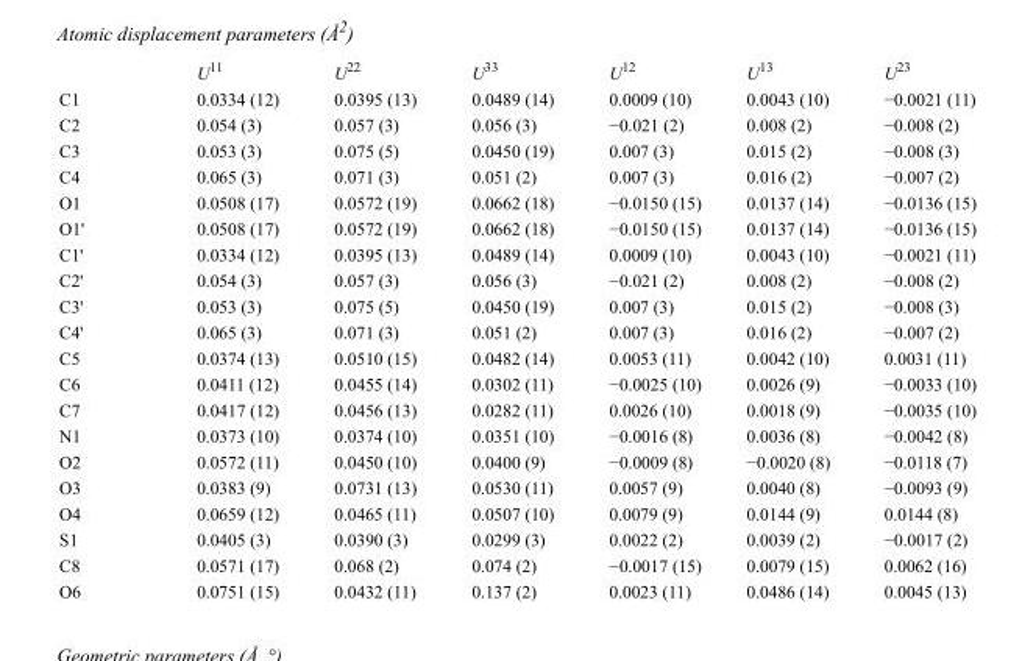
<table><thead><tr><td></td><td>U<sup>11</sup></td><td>U<sup>22</sup></td><td>U<sup>33</sup></td><td>U<sup>12</sup></td><td>U<sup>13</sup></td><td>U<sup>23</sup></td></tr></thead><tbody><tr><td>C1</td><td>0.0334 (12)</td><td>0.0395 (13)</td><td>0.0489 (14)</td><td>0.0009 (10)</td><td>0.0043 (10)</td><td>−0.0021 (11)</td></tr><tr><td>C2</td><td>0.054 (3)</td><td>0.057 (3)</td><td>0.056 (3)</td><td>−0.021 (2)</td><td>0.008 (2)</td><td>−0.008 (2)</td></tr><tr><td>C3</td><td>0.053 (3)</td><td>0.075 (5)</td><td>0.0450 (19)</td><td>0.007 (3)</td><td>0.015 (2)</td><td>−0.008 (3)</td></tr><tr><td>C4</td><td>0.065 (3)</td><td>0.071 (3)</td><td>0.051 (2)</td><td>0.007 (3)</td><td>0.016 (2)</td><td>−0.007 (2)</td></tr><tr><td>O1</td><td>0.0508 (17)</td><td>0.0572 (19)</td><td>0.0662 (18)</td><td>−0.0150 (15)</td><td>0.0137 (14)</td><td>−0.0136 (15)</td></tr><tr><td>O1&#x27;</td><td>0.0508 (17)</td><td>0.0572 (19)</td><td>0.0662 (18)</td><td>−0.0150 (15)</td><td>0.0137 (14)</td><td>−0.0136 (15)</td></tr><tr><td>C1&#x27;</td><td>0.0334 (12)</td><td>0.0395 (13)</td><td>0.0489 (14)</td><td>0.0009 (10)</td><td>0.0043 (10)</td><td>−0.0021 (11)</td></tr><tr><td>C2&#x27;</td><td>0.054 (3)</td><td>0.057 (3)</td><td>0.056 (3)</td><td>−0.021 (2)</td><td>0.008 (2)</td><td>−0.008 (2)</td></tr><tr><td>C3&#x27;</td><td>0.053 (3)</td><td>0.075 (5)</td><td>0.0450 (19)</td><td>0.007 (3)</td><td>0.015 (2)</td><td>−0.008 (3)</td></tr><tr><td>C4&#x27;</td><td>0.065 (3)</td><td>0.071 (3)</td><td>0.051 (2)</td><td>0.007 (3)</td><td>0.016 (2)</td><td>−0.007 (2)</td></tr><tr><td>C5</td><td>0.0374 (13)</td><td>0.0510 (15)</td><td>0.0482 (14)</td><td>0.0053 (11)</td><td>0.0042 (10)</td><td>0.0031 (11)</td></tr><tr><td>C6</td><td>0.0411 (12)</td><td>0.0455 (14)</td><td>0.0302 (11)</td><td>−0.0025 (10)</td><td>0.0026 (9)</td><td>−0.0033 (10)</td></tr><tr><td>C7</td><td>0.0417 (12)</td><td>0.0456 (13)</td><td>0.0282 (11)</td><td>0.0026 (10)</td><td>0.0018 (9)</td><td>−0.0035 (10)</td></tr><tr><td>N1</td><td>0.0373 (10)</td><td>0.0374 (10)</td><td>0.0351 (10)</td><td>−0.0016 (8)</td><td>0.0036 (8)</td><td>−0.0042 (8)</td></tr><tr><td>O2</td><td>0.0572 (11)</td><td>0.0450 (10)</td><td>0.0400 (9)</td><td>−0.0009 (8)</td><td>−0.0020 (8)</td><td>−0.0118 (7)</td></tr><tr><td>O3</td><td>0.0383 (9)</td><td>0.0731 (13)</td><td>0.0530 (11)</td><td>0.0057 (9)</td><td>0.0040 (8)</td><td>−0.0093 (9)</td></tr><tr><td>O4</td><td>0.0659 (12)</td><td>0.0465 (11)</td><td>0.0507 (10)</td><td>0.0079 (9)</td><td>0.0144 (9)</td><td>0.0144 (8)</td></tr><tr><td>S1</td><td>0.0405 (3)</td><td>0.0390 (3)</td><td>0.0299 (3)</td><td>0.0022 (2)</td><td>0.0039 (2)</td><td>−0.0017 (2)</td></tr><tr><td>C8</td><td>0.0571 (17)</td><td>0.068 (2)</td><td>0.074 (2)</td><td>−0.0017 (15)</td><td>0.0079 (15)</td><td>0.0062 (16)</td></tr><tr><td>O6</td><td>0.0751 (15)</td><td>0.0432 (11)</td><td>0.137 (2)</td><td>0.0023 (11)</td><td>0.0486 (14)</td><td>0.0045 (13)</td></tr></tbody></table>